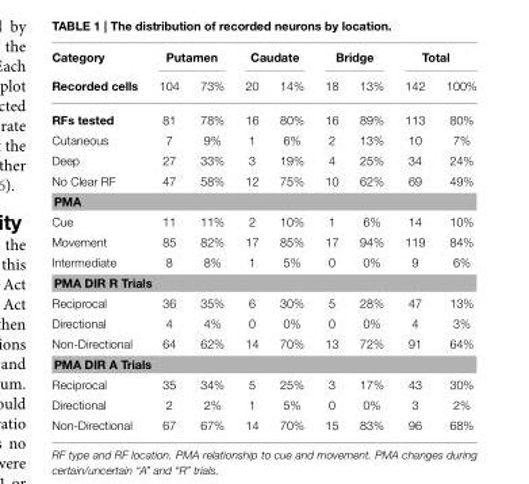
<table><thead><tr><td rowspan="2">Category Recorded cells</td><td colspan="2">Putamen</td><td colspan="2">Caudate</td><td colspan="2">Bridge</td><td colspan="2">Total</td></tr><tr><td>104</td><td>73%</td><td>20</td><td>14%</td><td>18</td><td>13%</td><td>142</td><td>100%</td></tr></thead><tbody><tr><td>RFs tested</td><td>81</td><td>78%</td><td>16</td><td>80%</td><td>16</td><td>89%</td><td>113</td><td>80%</td></tr><tr><td>Cutaneous</td><td>7</td><td>9%</td><td>1</td><td>6%</td><td>2</td><td>13%</td><td>10</td><td>7%</td></tr><tr><td>Deep</td><td>27</td><td>33%</td><td>3</td><td>19%</td><td>4</td><td>25%</td><td>34</td><td>24%</td></tr><tr><td>No Clear RF</td><td>47</td><td>58%</td><td>12</td><td>75%</td><td>10</td><td>62%</td><td>69</td><td>49%</td></tr><tr><td colspan="9">PMA</td></tr><tr><td>Cue</td><td>11</td><td>11%</td><td>2</td><td>10%</td><td>1</td><td>6%</td><td>14</td><td>10%</td></tr><tr><td>Movement</td><td>85</td><td>82%</td><td>17</td><td>85%</td><td>17</td><td>94%</td><td>119</td><td>84%</td></tr><tr><td>Intermediate</td><td>8</td><td>8%</td><td>1</td><td>5%</td><td>0</td><td>0%</td><td>9</td><td>6%</td></tr><tr><td colspan="9">PMA DIR R Trials</td></tr><tr><td>Reciprocal</td><td>36</td><td>35%</td><td>6</td><td>30%</td><td>5</td><td>28%</td><td>47</td><td>13%</td></tr><tr><td>Directional</td><td>4</td><td>4%</td><td>0</td><td>0%</td><td>0</td><td>0%</td><td>4</td><td>3%</td></tr><tr><td>Non-Directional</td><td>64</td><td>62%</td><td>14</td><td>70%</td><td>13</td><td>72%</td><td>91</td><td>64%</td></tr><tr><td colspan="9">PMA DIR A Trials</td></tr><tr><td>Reciprocal</td><td>35</td><td>34%</td><td>5</td><td>25%</td><td>3</td><td>17%</td><td>43</td><td>30%</td></tr><tr><td>Directional</td><td>2</td><td>2%</td><td>1</td><td>5%</td><td>0</td><td>0%</td><td>3</td><td>2%</td></tr><tr><td>Non-Directional</td><td>67</td><td>67%</td><td>14</td><td>70%</td><td>15</td><td>83%</td><td>96</td><td>68%</td></tr></tbody></table>